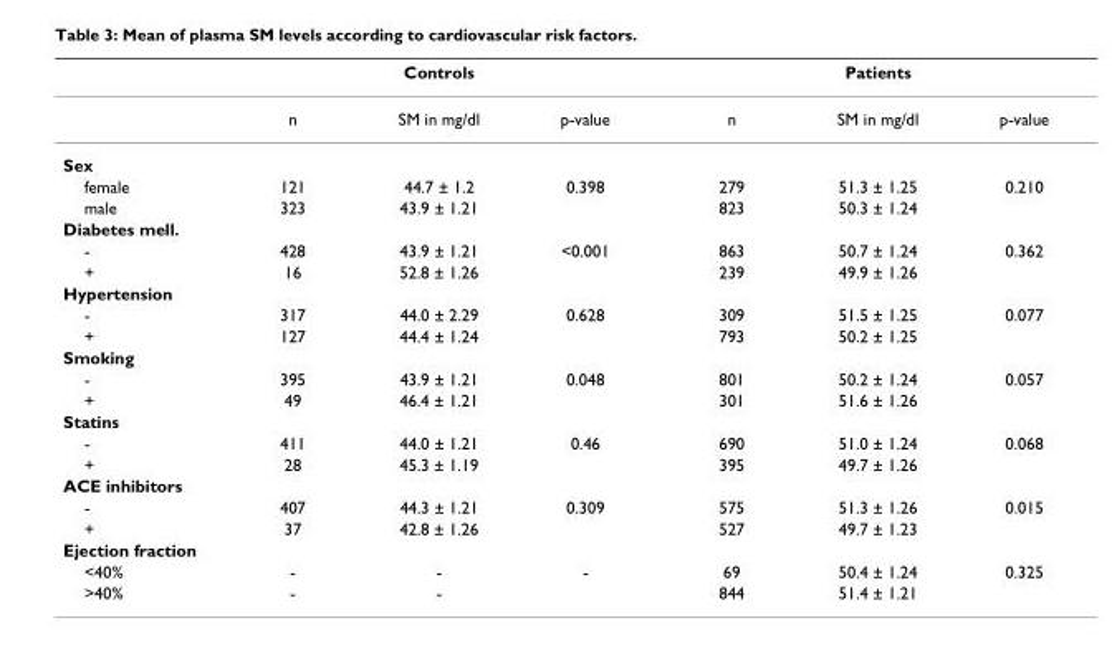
<table><thead><tr><td rowspan="2"></td><td colspan="3">Controls</td><td colspan="3">Patients</td></tr><tr><td>n</td><td>SM in mg/dl</td><td>p-value</td><td>n</td><td>SM in mg/dl</td><td>p-value</td></tr></thead><tbody><tr><td colspan="7">Sex</td></tr><tr><td>female</td><td>121</td><td>44.7 ± 1.2</td><td>0.398</td><td>279</td><td>51.3 ± 1.25</td><td>0.210</td></tr><tr><td>male</td><td>323</td><td>43.9 ± 1.21</td><td></td><td>823</td><td>50.3 ± 1.24</td><td></td></tr><tr><td colspan="7">Diabetes mell.</td></tr><tr><td>-</td><td>428</td><td>43.9 ± 1.21</td><td>&lt;0.001</td><td>863</td><td>50.7 ± 1.24</td><td>0.362</td></tr><tr><td>+</td><td>16</td><td>52.8 ± 1.26</td><td></td><td>239</td><td>49.9 ± 1.26</td><td></td></tr><tr><td colspan="7">Hypertension</td></tr><tr><td>-</td><td>317</td><td>44.0 ± 2.29</td><td>0.628</td><td>309</td><td>51.5 ± 1.25</td><td>0.077</td></tr><tr><td>+</td><td>127</td><td>44.4 ± 1.24</td><td></td><td>793</td><td>50.2 ± 1.25</td><td></td></tr><tr><td colspan="7">Smoking</td></tr><tr><td>-</td><td>395</td><td>43.9 ± 1.21</td><td>0.048</td><td>801</td><td>50.2 ± 1.24</td><td>0.057</td></tr><tr><td>+</td><td>49</td><td>46.4 ± 1.21</td><td></td><td>301</td><td>51.6 ± 1.26</td><td></td></tr><tr><td colspan="7">Statins</td></tr><tr><td>-</td><td>411</td><td>44.0 ± 1.21</td><td>0.46</td><td>690</td><td>51.0 ± 1.24</td><td>0.068</td></tr><tr><td>+</td><td>28</td><td>45.3 ± 1.19</td><td></td><td>395</td><td>49.7 ± 1.26</td><td></td></tr><tr><td colspan="7">ACE inhibitors</td></tr><tr><td>-</td><td>407</td><td>44.3 ± 1.21</td><td>0.309</td><td>575</td><td>51.3 ± 1.26</td><td>0.015</td></tr><tr><td>+</td><td>37</td><td>42.8 ± 1.26</td><td></td><td>527</td><td>49.7 ± 1.23</td><td></td></tr><tr><td colspan="7">Ejection fraction</td></tr><tr><td>&lt;40%</td><td>-</td><td>-</td><td>-</td><td>69</td><td>50.4 ± 1.24</td><td>0.325</td></tr><tr><td>&gt;40%</td><td>-</td><td>-</td><td></td><td>844</td><td>51.4 ± 1.21</td><td></td></tr></tbody></table>